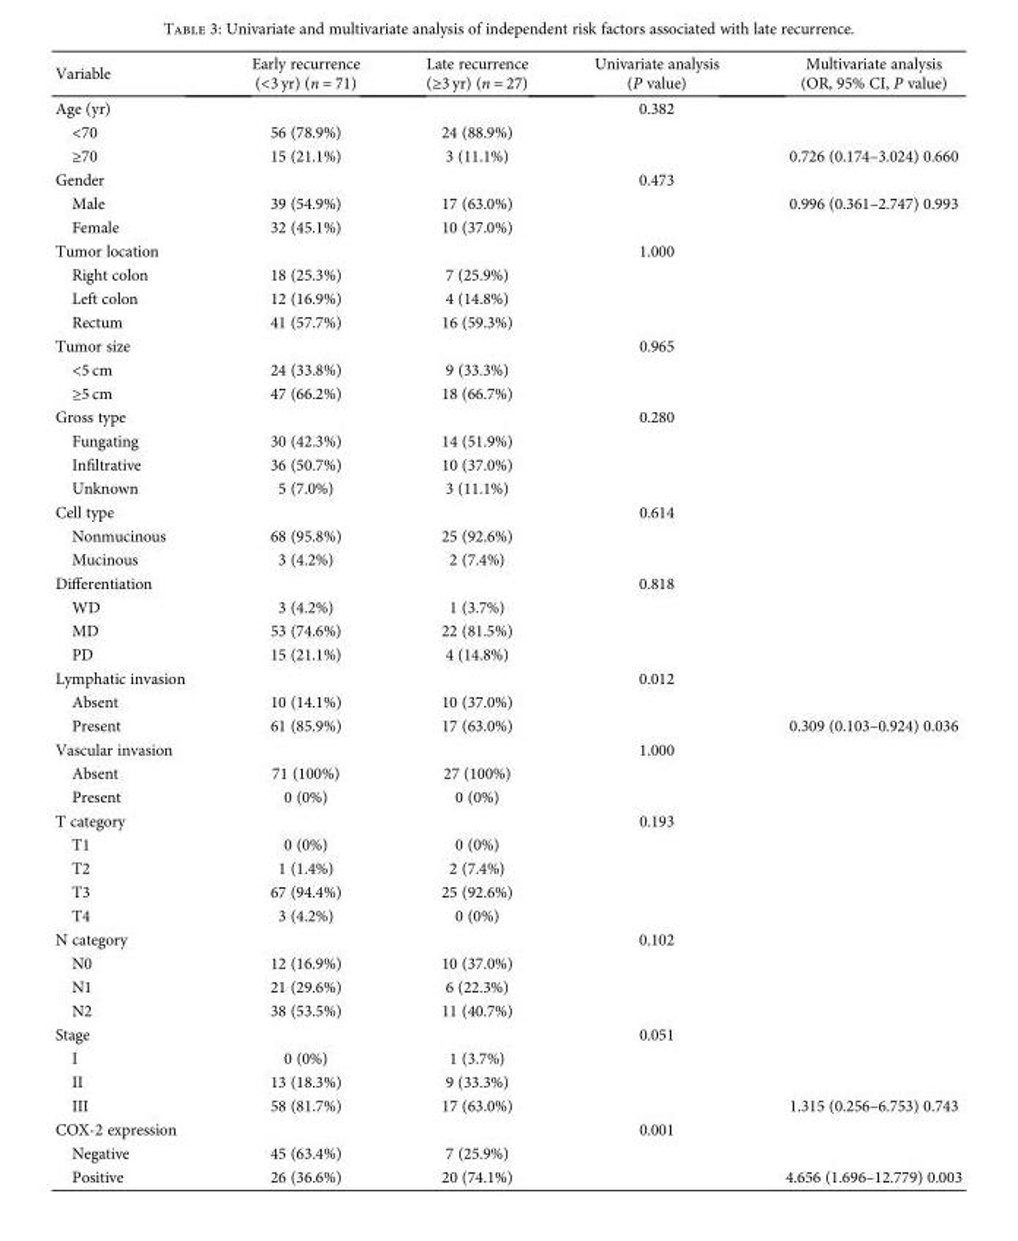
<table><thead><tr><td>Variable</td><td>Early recurrence (&lt;3 yr) (n = 71)</td><td>Late recurrence (≥3 yr) (n = 27)</td><td>Univariate analysis (P value)</td><td>Multivariate analysis (OR, 95% CI, P value)</td></tr></thead><tbody><tr><td>Age (yr)</td><td></td><td></td><td>0.382</td><td rowspan="2"></td></tr><tr><td>&lt;70</td><td>56 (78.9%)</td><td>24 (88.9%)</td><td rowspan="2"></td></tr><tr><td>≥70</td><td>15 (21.1%)</td><td>3 (11.1%)</td><td>0.726 (0.174–3.024) 0.660</td></tr><tr><td>Gender</td><td></td><td></td><td>0.473</td><td></td></tr><tr><td>Male</td><td>39 (54.9%)</td><td>17 (63.0%)</td><td rowspan="2"></td><td>0.996 (0.361–2.747) 0.993</td></tr><tr><td>Female</td><td>32 (45.1%)</td><td>10 (37.0%)</td><td></td></tr><tr><td>Tumor location</td><td></td><td></td><td>1.000</td><td rowspan="4"></td></tr><tr><td>Right colon</td><td>18 (25.3%)</td><td>7 (25.9%)</td><td rowspan="3"></td></tr><tr><td>Left colon</td><td>12 (16.9%)</td><td>4 (14.8%)</td></tr><tr><td>Rectum</td><td>41 (57.7%)</td><td>16 (59.3%)</td></tr><tr><td>Tumor size</td><td></td><td></td><td>0.965</td><td rowspan="3"></td></tr><tr><td>&lt;5 cm</td><td>24 (33.8%)</td><td>9 (33.3%)</td><td rowspan="2"></td></tr><tr><td>≥5 cm</td><td>47 (66.2%)</td><td>18 (66.7%)</td></tr><tr><td>Gross type</td><td></td><td></td><td>0.280</td><td rowspan="4"></td></tr><tr><td>Fungating</td><td>30 (42.3%)</td><td>14 (51.9%)</td><td rowspan="3"></td></tr><tr><td>Infiltrative</td><td>36 (50.7%)</td><td>10 (37.0%)</td></tr><tr><td>Unknown</td><td>5 (7.0%)</td><td>3 (11.1%)</td></tr><tr><td>Cell type</td><td></td><td></td><td>0.614</td><td rowspan="3"></td></tr><tr><td>Nonmucinous</td><td>68 (95.8%)</td><td>25 (92.6%)</td><td rowspan="2"></td></tr><tr><td>Mucinous</td><td>3 (4.2%)</td><td>2 (7.4%)</td></tr><tr><td>Differentiation</td><td></td><td></td><td>0.818</td><td rowspan="4"></td></tr><tr><td>WD</td><td>3 (4.2%)</td><td>1 (3.7%)</td><td rowspan="3"></td></tr><tr><td>MD</td><td>53 (74.6%)</td><td>22 (81.5%)</td></tr><tr><td>PD</td><td>15 (21.1%)</td><td>4 (14.8%)</td></tr><tr><td>Lymphatic invasion</td><td></td><td></td><td>0.012</td><td rowspan="2"></td></tr><tr><td>Absent</td><td>10 (14.1%)</td><td>10 (37.0%)</td><td rowspan="2"></td></tr><tr><td>Present</td><td>61 (85.9%)</td><td>17 (63.0%)</td><td>0.309 (0.103–0.924) 0.036</td></tr><tr><td>Vascular invasion</td><td></td><td></td><td>1.000</td><td rowspan="3"></td></tr><tr><td>Absent</td><td>71 (100%)</td><td>27 (100%)</td><td rowspan="2"></td></tr><tr><td>Present</td><td>0 (0%)</td><td>0 (0%)</td></tr><tr><td>T category</td><td></td><td></td><td>0.193</td><td rowspan="5"></td></tr><tr><td>T1</td><td>0 (0%)</td><td>0 (0%)</td><td rowspan="4"></td></tr><tr><td>T2</td><td>1 (1.4%)</td><td>2 (7.4%)</td></tr><tr><td>T3</td><td>67 (94.4%)</td><td>25 (92.6%)</td></tr><tr><td>T4</td><td>3 (4.2%)</td><td>0 (0%)</td></tr><tr><td>N category</td><td></td><td></td><td>0.102</td><td rowspan="4"></td></tr><tr><td>N0</td><td>12 (16.9%)</td><td>10 (37.0%)</td><td rowspan="3"></td></tr><tr><td>N1</td><td>21 (29.6%)</td><td>6 (22.3%)</td></tr><tr><td>N2</td><td>38 (53.5%)</td><td>11 (40.7%)</td></tr><tr><td>Stage</td><td></td><td></td><td>0.051</td><td rowspan="3"></td></tr><tr><td>I</td><td>0 (0%)</td><td>1 (3.7%)</td><td rowspan="3"></td></tr><tr><td>II</td><td>13 (18.3%)</td><td>9 (33.3%)</td></tr><tr><td>III</td><td>58 (81.7%)</td><td>17 (63.0%)</td><td>1.315 (0.256–6.753) 0.743</td></tr><tr><td>COX-2 expression</td><td></td><td></td><td>0.001</td><td rowspan="2"></td></tr><tr><td>Negative</td><td>45 (63.4%)</td><td>7 (25.9%)</td><td rowspan="2"></td></tr><tr><td>Positive</td><td>26 (36.6%)</td><td>20 (74.1%)</td><td>4.656 (1.696–12.779) 0.003</td></tr></tbody></table>